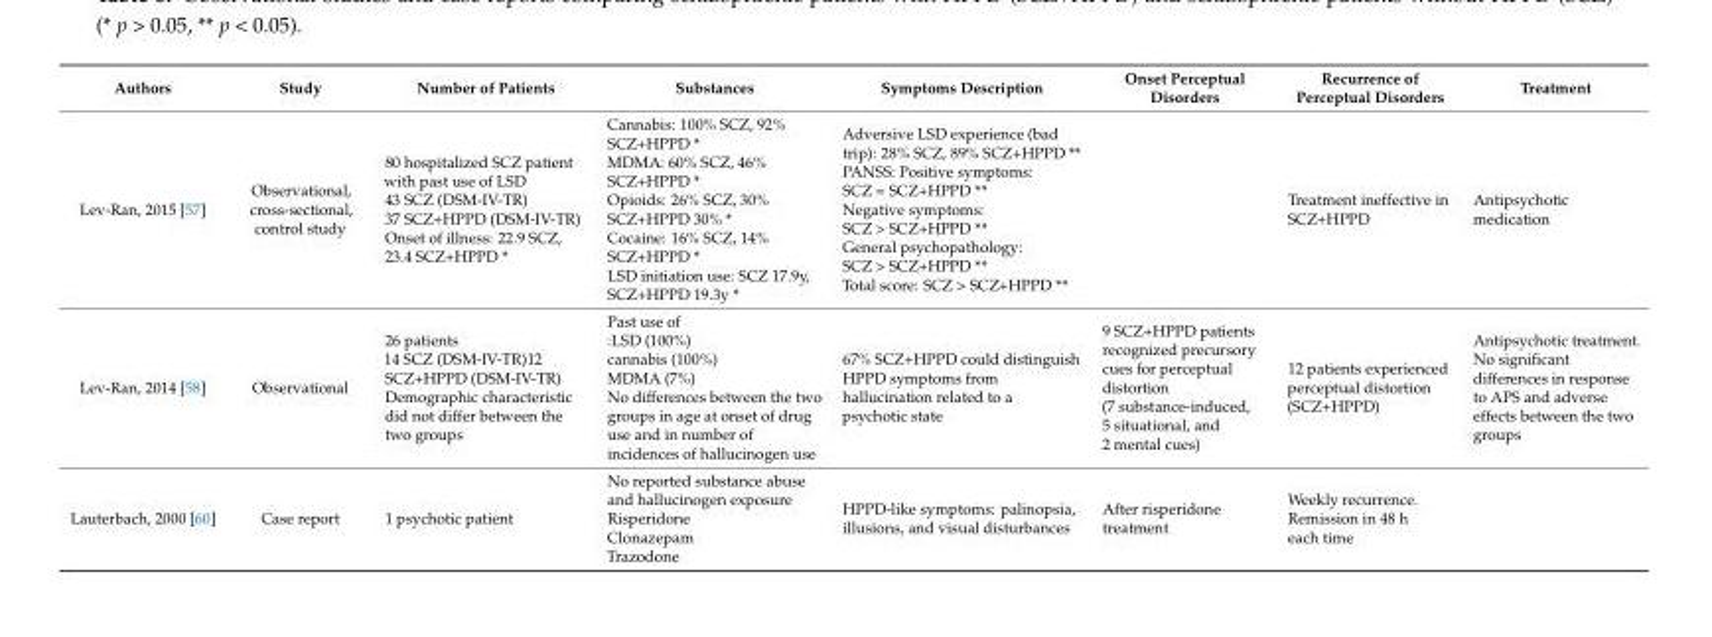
<table><thead><tr><td>Authors</td><td>Study</td><td>Number of Patients</td><td>Substances</td><td>Symptoms Description</td><td>Onset Perceptual Disorders</td><td>Recurrence of Perceptual Disorders</td><td>Treatment</td></tr></thead><tbody><tr><td>Lev-Ran, 2015 [57]</td><td>Observational, cross-sectional, control study</td><td>80 hospitalized SCZ patient with past use of LSD 43 SCZ (DSM-IV-TR) 37 SCZ+HPPD (DSM-IV-TR) Onset of illness: 22.9 SCZ, 23.4 SCZ+HPPD *</td><td>Cannabis: 100% SCZ, 92% SCZ+HPPD * MDMA: 60% SCZ, 46% SCZ+HPPD * Opioids: 26% SCZ, 30% SCZ+HPPD 30% * Cocaine: 16% SCZ, 14% SCZ+HPPD * LSD initiation use: SCZ 17.9y, SCZ+HPPD 19.3y *</td><td>Adversive LSD experience (bad trip): 28% SCZ, 89% SCZ+HPPD ** PANSS: Positive symptoms: SCZ = SCZ+HPPD ** Negative symptoms: SCZ &gt; SCZ+HPPD ** General psychopathology: SCZ &gt; SCZ+HPPD ** Total score: SCZ &gt; SCZ+HPPD **</td><td></td><td>Treatment ineffective in SCZ+HPPD</td><td>Antipsychotic medication</td></tr><tr><td>Lev-Ran, 2014 [58]</td><td>Observational</td><td>26 patients 14 SCZ (DSM-IV-TR)12 SCZ+HPPD (DSM-IV-TR) Demographic characteristic did not differ between the two groups</td><td>Past use of :LSD (100%) cannabis (100%) MDMA (7%) No differences between the two groups in age at onset of drug use and in number of incidences of hallucinogen use</td><td>67% SCZ+HPPD could distinguish HPPD symptoms from hallucination related to a psychotic state</td><td>9 SCZ+HPPD patients recognized precursory cues for perceptual distortion (7 substance-induced, 5 situational, and 2 mental cues)</td><td>12 patients experienced perceptual distortion (SCZ+HPPD)</td><td>Antipsychotic treatment. No significant differences in response to APS and adverse effects between the two groups</td></tr><tr><td>Lauterbach, 2000 [60]</td><td>Case report</td><td>1 psychotic patient</td><td>No reported substance abuse and hallucinogen exposure Risperidone Clonazepam Trazodone</td><td>HPPD-like symptoms: palinopsia, illusions, and visual disturbances</td><td>After risperidone treatment</td><td>Weekly recurrence. Remission in 48 h each time</td><td></td></tr></tbody></table>